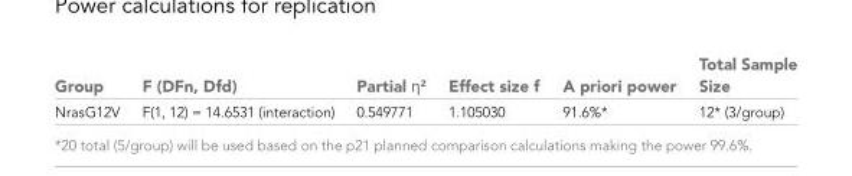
<table><thead><tr><td>Group</td><td>F (DFn, Dfd)</td><td>Partial η<sup>2</sup></td><td>Effect size f</td><td>A priori power</td><td>Total Sample Size</td></tr></thead><tbody><tr><td>NrasG12V</td><td>F(1, 12) = 14.6531 (interaction)</td><td>0.549771</td><td>1.105030</td><td>91.6%*</td><td>12* (3/group)</td></tr></tbody></table>